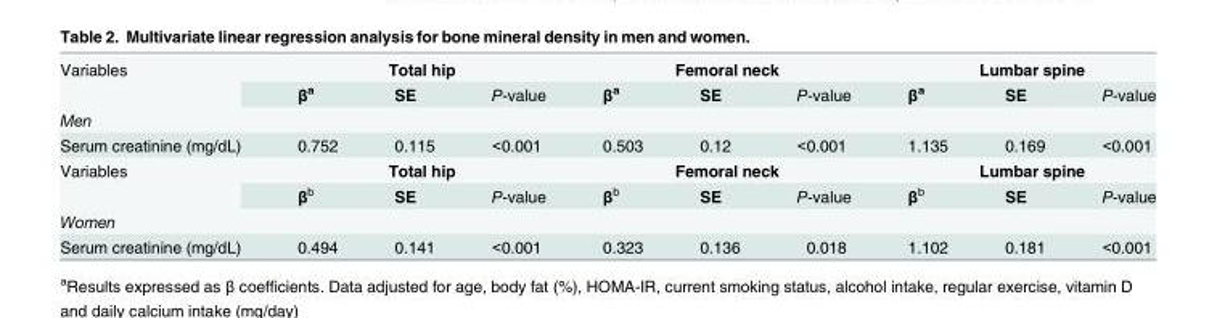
<table><tbody><tr><td rowspan="2">Variables</td><td colspan="3">Total hip</td><td colspan="3">Femoral neck</td><td colspan="3">Lumbar spine</td></tr><tr><td>β<sup>a</sup></td><td>SE</td><td>P-value</td><td>β<sup>a</sup></td><td>SE</td><td>P-value</td><td>β<sup>a</sup></td><td>SE</td><td>P-value</td></tr><tr><td colspan="10">Men</td></tr><tr><td>Serum creatinine (mg/dL)</td><td>0.752</td><td>0.115</td><td>&lt;0.001</td><td>0.503</td><td>0.12</td><td>&lt;0.001</td><td>1.135</td><td>0.169</td><td>&lt;0.001</td></tr><tr><td rowspan="2">Variables</td><td colspan="3">Total hip</td><td colspan="3">Femoral neck</td><td colspan="3">Lumbar spine</td></tr><tr><td>β<sup>b</sup></td><td>SE</td><td>P-value</td><td>β<sup>b</sup></td><td>SE</td><td>P-value</td><td>β<sup>b</sup></td><td>SE</td><td>P-value</td></tr><tr><td colspan="10">Women</td></tr><tr><td>Serum creatinine (mg/dL)</td><td>0.494</td><td>0.141</td><td>&lt;0.001</td><td>0.323</td><td>0.136</td><td>0.018</td><td>1.102</td><td>0.181</td><td>&lt;0.001</td></tr></tbody></table>